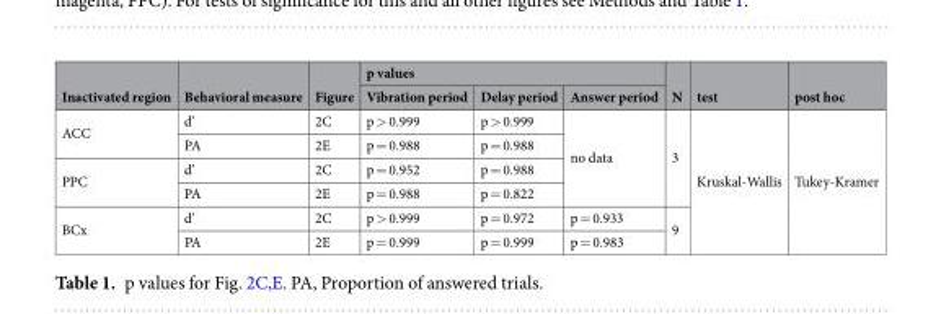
<table><thead><tr><td rowspan="2">Inactivated region</td><td rowspan="2">Behavioral measure</td><td rowspan="2">Figure</td><td colspan="3">p values</td><td rowspan="2">N</td><td rowspan="2">test</td><td rowspan="2">post hoc</td></tr><tr><td>Vibration period</td><td>Delay period</td><td>Answer period</td></tr></thead><tbody><tr><td rowspan="2">ACC</td><td>d’</td><td>2C</td><td>p &gt; 0.999</td><td>p &gt; 0.999</td><td rowspan="4">no data</td><td rowspan="4">3</td><td rowspan="6">Kruskal-Wallis</td><td rowspan="6">Tukey-Kramer</td></tr><tr><td>PA</td><td>2E</td><td>p = 0.988</td><td>p = 0.988</td></tr><tr><td rowspan="2">PPC</td><td>d’</td><td>2C</td><td>p = 0.952</td><td>p = 0.988</td></tr><tr><td>PA</td><td>2E</td><td>p = 0.988</td><td>p = 0.822</td></tr><tr><td rowspan="2">BCx</td><td>d’</td><td>2C</td><td>p &gt; 0.999</td><td>p = 0.972</td><td>p = 0.933</td><td rowspan="2">9</td></tr><tr><td>PA</td><td>2E</td><td>p = 0.999</td><td>p = 0.999</td><td>p = 0.983</td></tr></tbody></table>